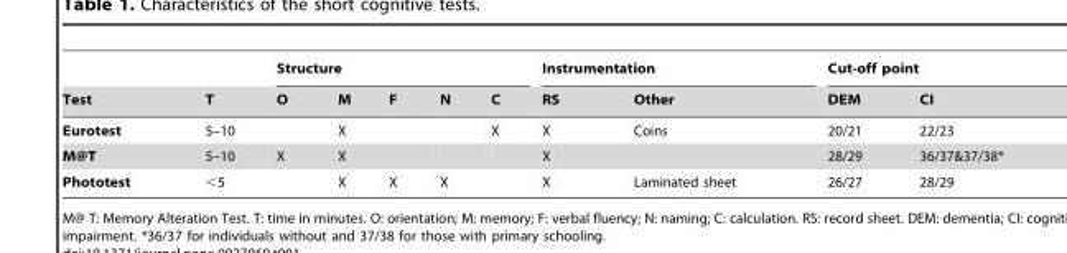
<table><thead><tr><td rowspan="2">Test</td><td rowspan="2">T</td><td colspan="5">Structure</td><td colspan="2">Instrumentation</td><td colspan="2">Cut-off point</td></tr><tr><td>O</td><td>M</td><td>F</td><td>N</td><td>C</td><td>RS</td><td>Other</td><td>DEM</td><td>CI</td></tr></thead><tbody><tr><td>Eurotest</td><td>5–10</td><td></td><td>X</td><td></td><td></td><td>X</td><td>X</td><td>Coins</td><td>20/21</td><td>22/23</td></tr><tr><td>M@T</td><td>5–10</td><td>X</td><td>X</td><td></td><td></td><td></td><td>X</td><td></td><td>28/29</td><td>36/37&amp;37/38*</td></tr><tr><td>Phototest</td><td>&lt;5</td><td></td><td>X</td><td>X</td><td>X</td><td></td><td>X</td><td>Laminated sheet</td><td>26/27</td><td>28/29</td></tr></tbody></table>